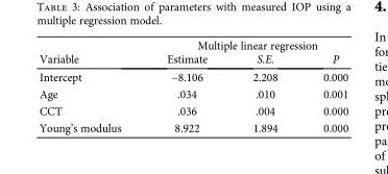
<table><thead><tr><td rowspan="2">Variable</td><td colspan="3">Multiple linear regression</td></tr><tr><td>Estimate</td><td>S.E.</td><td>P</td></tr></thead><tbody><tr><td>Intercept</td><td>−8.106</td><td>2.208</td><td>0.000</td></tr><tr><td>Age</td><td>.034</td><td>.010</td><td>0.001</td></tr><tr><td>CCT</td><td>.036</td><td>.004</td><td>0.000</td></tr><tr><td>Young’s modulus</td><td>8.922</td><td>1.894</td><td>0.000</td></tr></tbody></table>